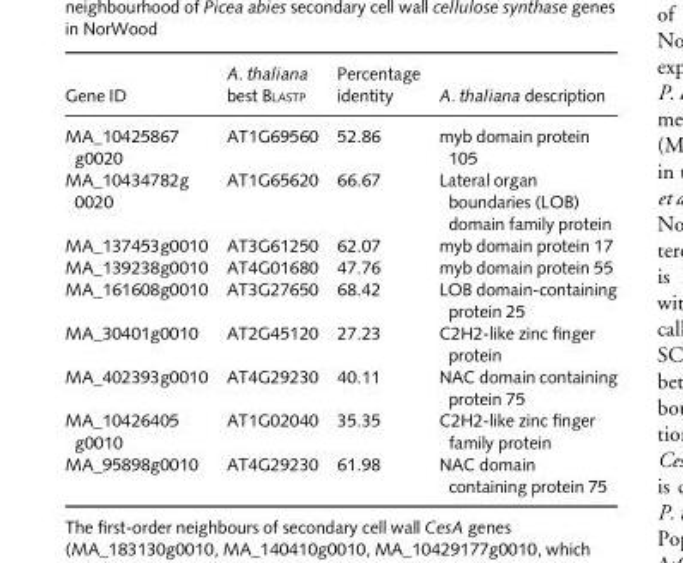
<table><thead><tr><td>Gene ID</td><td>A. thaliana best BLASTP</td><td>Percentage identity</td><td>A. thaliana description</td></tr></thead><tbody><tr><td>MA_10425867 g0020</td><td>AT1G69560</td><td>52.86</td><td>myb domain protein 105</td></tr><tr><td>MA_10434782g 0020</td><td>AT1G65620</td><td>66.67</td><td>Lateral organ boundaries (LOB) domain family protein</td></tr><tr><td>MA_137453g0010</td><td>AT3G61250</td><td>62.07</td><td>myb domain protein 17</td></tr><tr><td>MA_139238g0010</td><td>AT4G01680</td><td>47.76</td><td>myb domain protein 55</td></tr><tr><td>MA_161608g0010</td><td>AT3G27650</td><td>68.42</td><td>LOB domain-containing protein 25</td></tr><tr><td>MA_30401g0010</td><td>AT2G45120</td><td>27.23</td><td>C2H2-like zinc finger protein</td></tr><tr><td>MA_402393g0010</td><td>AT4G29230</td><td>40.11</td><td>NAC domain containing protein 75</td></tr><tr><td>MA_10426405 g0010</td><td>AT1G02040</td><td>35.35</td><td>C2H2-like zinc finger family protein</td></tr><tr><td>MA_95898g0010</td><td>AT4G29230</td><td>61.98</td><td>NAC domain containing protein 75</td></tr></tbody></table>